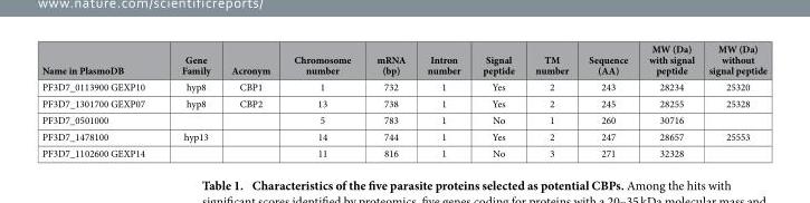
<table><thead><tr><td>Name in PlasmoDB</td><td>Gene Family</td><td>Acronym</td><td>Chromosome number</td><td>mRNA (bp)</td><td>Intron number</td><td>Signal peptide</td><td>TM number</td><td>Sequence (AA)</td><td>MW (Da) with signal peptide</td><td>MW (Da) without signal peptide</td></tr></thead><tbody><tr><td>PF3D7_0113900 GEXP10</td><td>hyp8</td><td>CBP1</td><td>1</td><td>732</td><td>1</td><td>Yes</td><td>2</td><td>243</td><td>28234</td><td>25320</td></tr><tr><td>PF3D7_1301700 GEXP07</td><td>hyp8</td><td>CBP2</td><td>13</td><td>738</td><td>1</td><td>Yes</td><td>2</td><td>245</td><td>28255</td><td>25328</td></tr><tr><td>PF3D7_0501000</td><td></td><td></td><td>5</td><td>783</td><td>1</td><td>No</td><td>1</td><td>260</td><td>30716</td><td></td></tr><tr><td>PF3D7_1478100</td><td>hyp13</td><td></td><td>14</td><td>744</td><td>1</td><td>Yes</td><td>2</td><td>247</td><td>28657</td><td>25553</td></tr><tr><td>PF3D7_1102600 GEXP14</td><td></td><td></td><td>11</td><td>816</td><td>1</td><td>No</td><td>3</td><td>271</td><td>32328</td><td></td></tr></tbody></table>